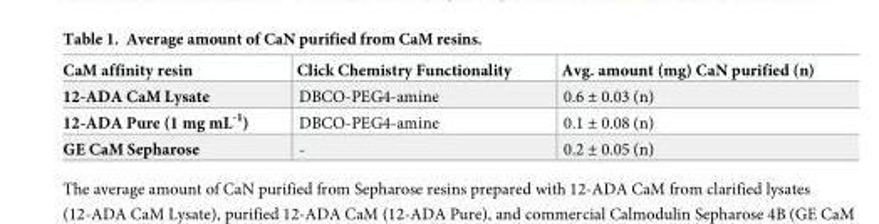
<table><thead><tr><td>CaM affinity resin</td><td>Click Chemistry Functionality</td><td>Avg. amount (mg) CaN purified (n)</td></tr></thead><tbody><tr><td>12-ADA CaM Lysate</td><td>DBCO-PEG4-amine</td><td>0.6 ± 0.03 (n)</td></tr><tr><td>12-ADA Pure (1 mg mL<sup>-1</sup>)</td><td>DBCO-PEG4-amine</td><td>0.1 ± 0.08 (n)</td></tr><tr><td>GE CaM Sepharose</td><td>-</td><td>0.2 ± 0.05 (n)</td></tr></tbody></table>